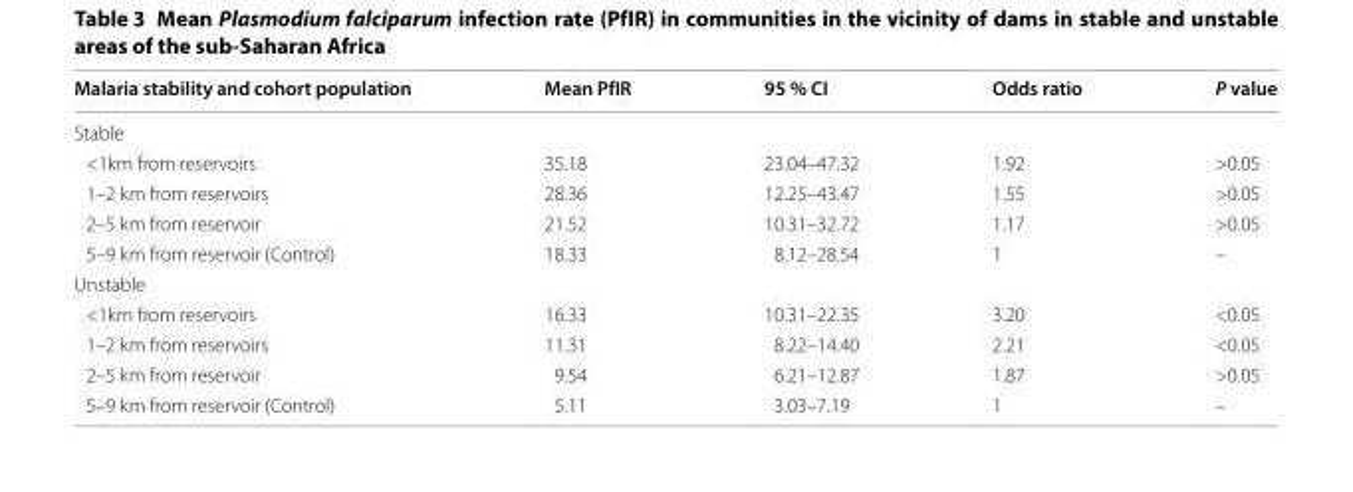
<table><thead><tr><td>Malaria stability and cohort population</td><td>Mean PfIR</td><td>95 % CI</td><td>Odds ratio</td><td>P value</td></tr></thead><tbody><tr><td colspan="5">Stable</td></tr><tr><td>&lt;1km from reservoirs</td><td>35.18</td><td>23.04–47.32</td><td>1.92</td><td>&gt;0.05</td></tr><tr><td>1–2 km from reservoirs</td><td>28.36</td><td>12.25–43.47</td><td>1.55</td><td>&gt;0.05</td></tr><tr><td>2–5 km from reservoir</td><td>21.52</td><td>10.31–32.72</td><td>1.17</td><td>&gt;0.05</td></tr><tr><td>5–9 km from reservoir (Control)</td><td>18.33</td><td>8.12–28.54</td><td>1</td><td>–</td></tr><tr><td colspan="5">Unstable</td></tr><tr><td>&lt;1km from reservoirs</td><td>16.33</td><td>10.31–22.35</td><td>3.20</td><td>&lt;0.05</td></tr><tr><td>1–2 km from reservoirs</td><td>11.31</td><td>8.22–14.40</td><td>2.21</td><td>&lt;0.05</td></tr><tr><td>2–5 km from reservoir</td><td>9.54</td><td>6.21–12.87</td><td>1.87</td><td>&gt;0.05</td></tr><tr><td>5–9 km from reservoir (Control)</td><td>5.11</td><td>3.03–7.19</td><td>1</td><td>–</td></tr></tbody></table>